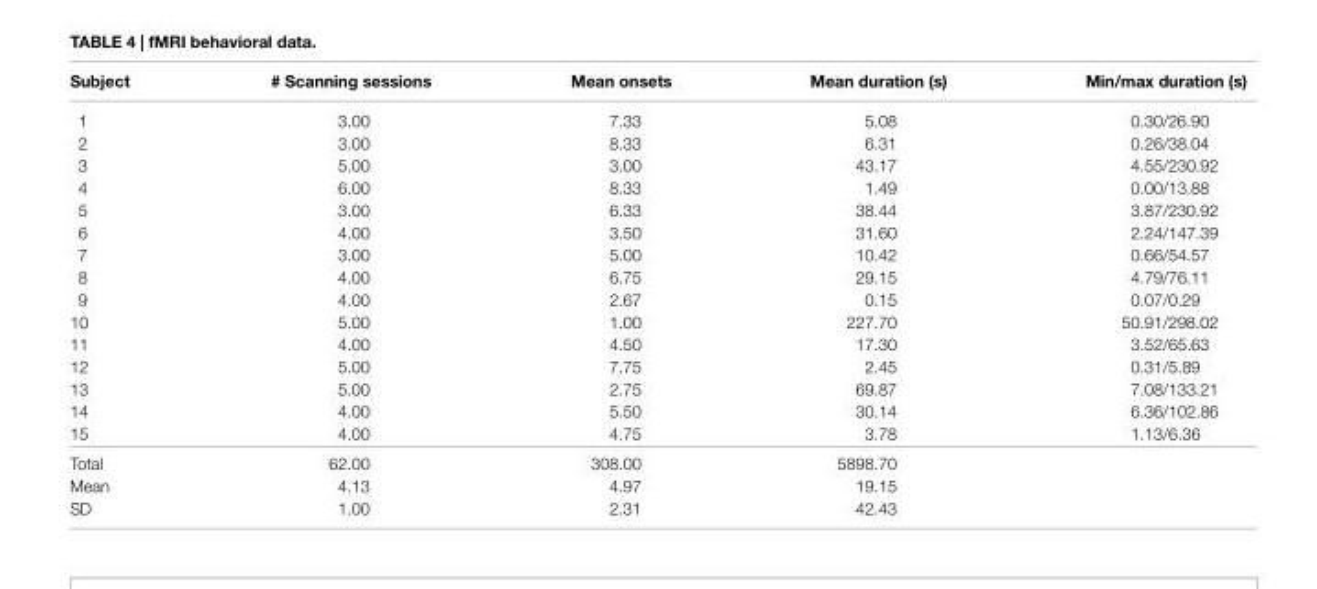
<table><thead><tr><td>subject</td><td># scanning sessions</td><td>Mean onsets</td><td>Mean duration (s)</td><td>Min/max duration (s)</td></tr></thead><tbody><tr><td>1</td><td>3.00</td><td>7.33</td><td>5.08</td><td>0.30/26.90</td></tr><tr><td>2</td><td>3.00</td><td>8.33</td><td>6.31</td><td>0.26/38.04</td></tr><tr><td>3</td><td>5.00</td><td>3.00</td><td>43.17</td><td>4.55/230.92</td></tr><tr><td>4</td><td>6.00</td><td>8.33</td><td>1.49</td><td>0.00/13.88</td></tr><tr><td>5</td><td>3.00</td><td>6.33</td><td>38.44</td><td>3.87/230.92</td></tr><tr><td>6</td><td>4.00</td><td>3.50</td><td>31.60</td><td>2.24/147.39</td></tr><tr><td>7</td><td>3.00</td><td>5.00</td><td>10.42</td><td>0.66/54.57</td></tr><tr><td>8</td><td>4.00</td><td>6.75</td><td>29.15</td><td>4.79/76.11</td></tr><tr><td>9</td><td>4.00</td><td>2.67</td><td>0.15</td><td>0.07/0.29</td></tr><tr><td>10</td><td>5.00</td><td>1.00</td><td>227.70</td><td>50.91/298.02</td></tr><tr><td>11</td><td>4.00</td><td>4.50</td><td>17.30</td><td>3.52/65.63</td></tr><tr><td>12</td><td>5.00</td><td>7.75</td><td>2.45</td><td>0.31/5.89</td></tr><tr><td>13</td><td>5.00</td><td>2.75</td><td>69.87</td><td>7.08/133.21</td></tr><tr><td>14</td><td>4.00</td><td>5.50</td><td>30.14</td><td>6.36/102.86</td></tr><tr><td>15</td><td>4.00</td><td>4.75</td><td>3.78</td><td>1.13/6.36</td></tr><tr><td>Total</td><td>62.00</td><td>308.00</td><td>5898.70</td><td></td></tr><tr><td>Mean</td><td>4.13</td><td>4.97</td><td>19.15</td><td></td></tr><tr><td>SD</td><td>1.00</td><td>2.31</td><td>42.43</td><td></td></tr></tbody></table>